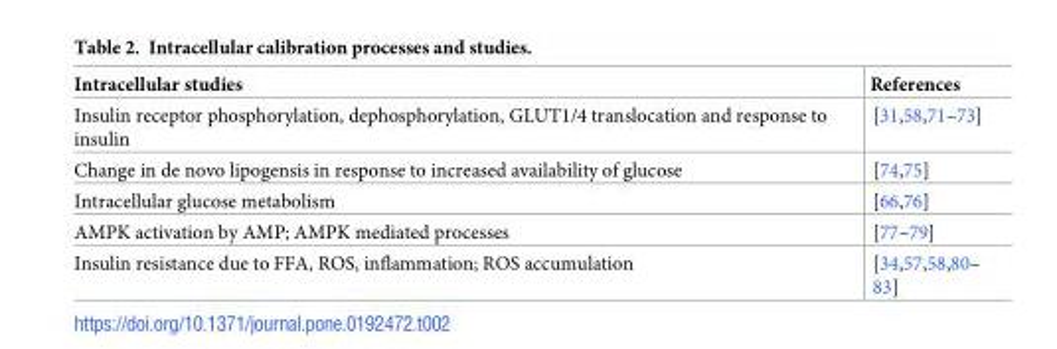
<table><thead><tr><td>Intracellular studies</td><td>References</td></tr></thead><tbody><tr><td>Insulin receptor phosphorylation, dephosphorylation, GLUT1/4 translocation and response to insulin</td><td>[31,58,71–73]</td></tr><tr><td>Change in de novo lipogensis in response to increased availability of glucose</td><td>[74,75]</td></tr><tr><td>Intracellular glucose metabolism</td><td>[66,76]</td></tr><tr><td>AMPK activation by AMP; AMPK mediated processes</td><td>[77–79]</td></tr><tr><td>Insulin resistance due to FFA, ROS, inflammation; ROS accumulation</td><td>[34,57,58,80–</td></tr></tbody></table>